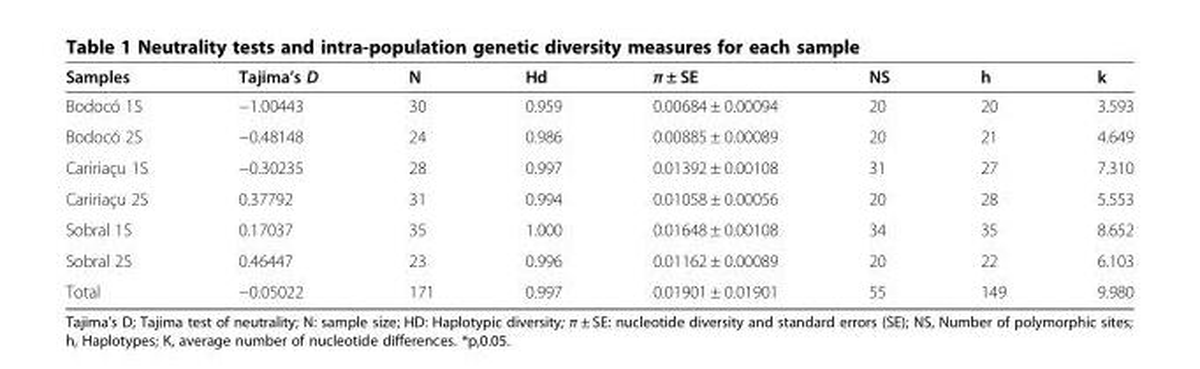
<table><thead><tr><td>Samples</td><td>Tajima’s D</td><td>N</td><td>Hd</td><td>π ± SE</td><td>NS</td><td>h</td><td>k</td></tr></thead><tbody><tr><td>Bodocó 1S</td><td>−1.00443</td><td>30</td><td>0.959</td><td>0.00684 ± 0.00094</td><td>20</td><td>20</td><td>3.593</td></tr><tr><td>Bodocó 2S</td><td>−0.48148</td><td>24</td><td>0.986</td><td>0.00885 ± 0.00089</td><td>20</td><td>21</td><td>4.649</td></tr><tr><td>Caririaçu 1S</td><td>−0.30235</td><td>28</td><td>0.997</td><td>0.01392 ± 0.00108</td><td>31</td><td>27</td><td>7.310</td></tr><tr><td>Caririaçu 2S</td><td>0.37792</td><td>31</td><td>0.994</td><td>0.01058 ± 0.00056</td><td>20</td><td>28</td><td>5.553</td></tr><tr><td>Sobral 1S</td><td>0.17037</td><td>35</td><td>1.000</td><td>0.01648 ± 0.00108</td><td>34</td><td>35</td><td>8.652</td></tr><tr><td>Sobral 2S</td><td>0.46447</td><td>23</td><td>0.996</td><td>0.01162 ± 0.00089</td><td>20</td><td>22</td><td>6.103</td></tr><tr><td>Total</td><td>−0.05022</td><td>171</td><td>0.997</td><td>0.01901 ± 0.01901</td><td>55</td><td>149</td><td>9.980</td></tr></tbody></table>